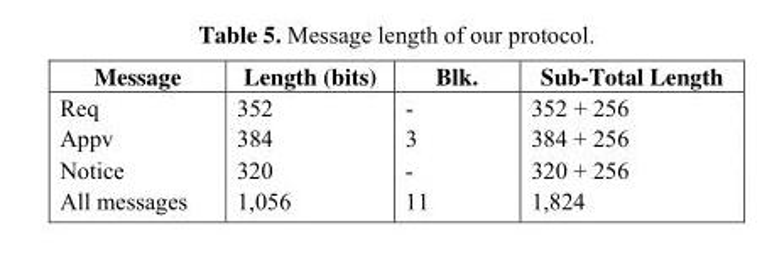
<table><thead><tr><td>Message</td><td>Length (bits)</td><td>Blk.</td><td>Sub-Total Length</td></tr></thead><tbody><tr><td>Req</td><td>352</td><td>-</td><td>352 + 256</td></tr><tr><td>Appv</td><td>384</td><td>3</td><td>384 + 256</td></tr><tr><td>Notice</td><td>320</td><td>-</td><td>320 + 256</td></tr><tr><td>All messages</td><td>1,056</td><td>11</td><td>1,824</td></tr></tbody></table>